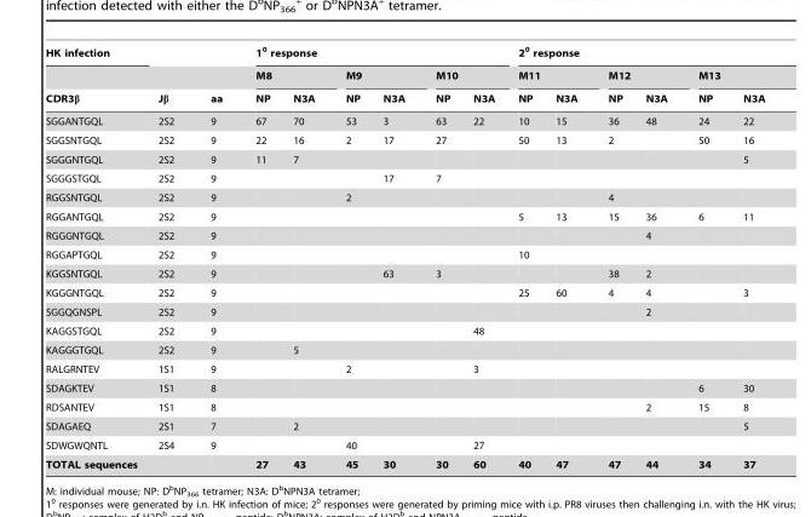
<table><thead><tr><td rowspan="3">HK infection CDR3β</td><td rowspan="3">Jβ</td><td rowspan="3">aa</td><td colspan="6">1<sup>0</sup> response</td><td colspan="6">2<sup>0</sup> response</td></tr><tr><td colspan="2">M8</td><td colspan="2">M9</td><td colspan="2">M10</td><td colspan="2">M11</td><td colspan="2">M12</td><td colspan="2">M13</td></tr><tr><td>NP</td><td>N3A</td><td>NP</td><td>N3A</td><td>NP</td><td>N3A</td><td>NP</td><td>N3A</td><td>NP</td><td>N3A</td><td>NP</td><td>N3A</td></tr></thead><tbody><tr><td>SGGANTGQL</td><td>2S2</td><td>9</td><td>67</td><td>70</td><td>53</td><td>3</td><td>63</td><td>22</td><td>10</td><td>15</td><td>36</td><td>48</td><td>24</td><td>22</td></tr><tr><td>SGGSNTGQL</td><td>2S2</td><td>9</td><td>22</td><td>16</td><td>2</td><td>17</td><td>27</td><td></td><td>50</td><td>13</td><td>2</td><td></td><td>50</td><td>16</td></tr><tr><td>SGGGNTGQL</td><td>2S2</td><td>9</td><td>11</td><td>7</td><td></td><td></td><td></td><td></td><td></td><td></td><td></td><td></td><td></td><td>5</td></tr><tr><td>SGGGSTGQL</td><td>2S2</td><td>9</td><td></td><td></td><td></td><td>17</td><td>7</td><td></td><td></td><td></td><td></td><td></td><td></td><td></td></tr><tr><td>RGGSNTGQL</td><td>2S2</td><td>9</td><td></td><td></td><td>2</td><td></td><td></td><td></td><td></td><td></td><td>4</td><td></td><td></td><td></td></tr><tr><td>RGGANTGQL</td><td>2S2</td><td>9</td><td></td><td></td><td></td><td></td><td></td><td></td><td>5</td><td>13</td><td>15</td><td>36</td><td>6</td><td>11</td></tr><tr><td>RGGGNTGQL</td><td>2S2</td><td>9</td><td></td><td></td><td></td><td></td><td></td><td></td><td></td><td></td><td></td><td>4</td><td></td><td></td></tr><tr><td>RGGAPTGQL</td><td>2S2</td><td>9</td><td></td><td></td><td></td><td></td><td></td><td></td><td>10</td><td></td><td></td><td></td><td></td><td></td></tr><tr><td>KGGSNTGQL</td><td>2S2</td><td>9</td><td></td><td></td><td></td><td>63</td><td>3</td><td></td><td></td><td></td><td>38</td><td>2</td><td></td><td></td></tr><tr><td>KGGGNTGQL</td><td>2S2</td><td>9</td><td></td><td></td><td></td><td></td><td></td><td></td><td>25</td><td>60</td><td>4</td><td>4</td><td></td><td>3</td></tr><tr><td>SGGQGNSPL</td><td>2S2</td><td>9</td><td></td><td></td><td></td><td></td><td></td><td></td><td></td><td></td><td></td><td>2</td><td></td><td></td></tr><tr><td>KAGGSTGQL</td><td>2S2</td><td>9</td><td></td><td></td><td></td><td></td><td></td><td>48</td><td></td><td></td><td></td><td></td><td></td><td></td></tr><tr><td>KAGGGTGQL</td><td>2S2</td><td>9</td><td></td><td>5</td><td></td><td></td><td></td><td></td><td></td><td></td><td></td><td></td><td></td><td></td></tr><tr><td>RALGRNTEV</td><td>1S1</td><td>9</td><td></td><td></td><td>2</td><td></td><td></td><td>3</td><td></td><td></td><td></td><td></td><td></td><td></td></tr><tr><td>SDAGKTEV</td><td>1S1</td><td>8</td><td></td><td></td><td></td><td></td><td></td><td></td><td></td><td></td><td></td><td></td><td>6</td><td>30</td></tr><tr><td>RDSANTEV</td><td>1S1</td><td>8</td><td></td><td></td><td></td><td></td><td></td><td></td><td></td><td></td><td></td><td>2</td><td>15</td><td>8</td></tr><tr><td>SDAGAEQ</td><td>2S1</td><td>7</td><td></td><td>2</td><td></td><td></td><td></td><td></td><td></td><td></td><td></td><td></td><td></td><td>5</td></tr><tr><td>SDWGWQNTL</td><td>2S4</td><td>9</td><td></td><td></td><td>40</td><td></td><td></td><td>27</td><td></td><td></td><td></td><td></td><td></td><td></td></tr><tr><td>TOTAL sequences</td><td></td><td></td><td>27</td><td>43</td><td>45</td><td>30</td><td>30</td><td>60</td><td>40</td><td>47</td><td>47</td><td>44</td><td>34</td><td>37</td></tr></tbody></table>